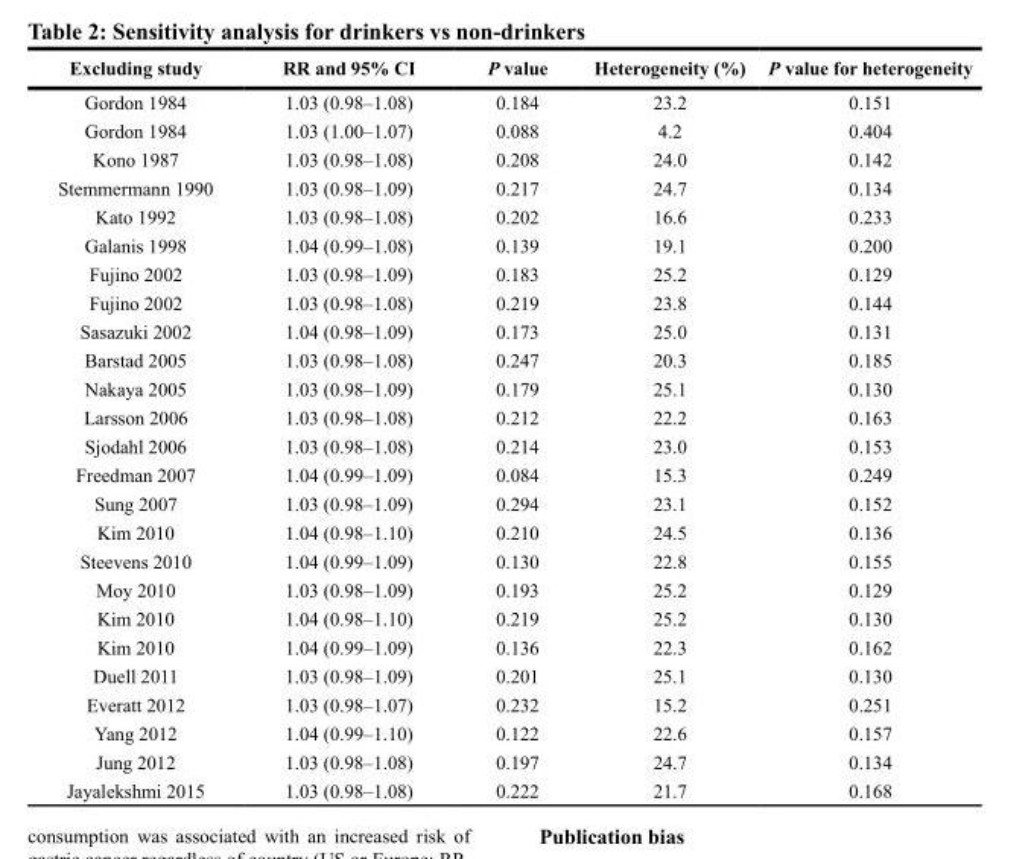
<table><thead><tr><td>Excluding study</td><td>RR and 95% CI</td><td>P value</td><td>Heterogeneity (%)</td><td>P value for heterogeneity</td></tr></thead><tbody><tr><td>Gordon 1984</td><td>1.03 (0.98–1.08)</td><td>0.184</td><td>23.2</td><td>0.151</td></tr><tr><td>Gordon 1984</td><td>1.03 (1.00–1.07)</td><td>0.088</td><td>4.2</td><td>0.404</td></tr><tr><td>Kono 1987</td><td>1.03 (0.98–1.08)</td><td>0.208</td><td>24.0</td><td>0.142</td></tr><tr><td>Stemmermann 1990</td><td>1.03 (0.98–1.09)</td><td>0.217</td><td>24.7</td><td>0.134</td></tr><tr><td>Kato 1992</td><td>1.03 (0.98–1.08)</td><td>0.202</td><td>16.6</td><td>0.233</td></tr><tr><td>Galanis 1998</td><td>1.04 (0.99–1.08)</td><td>0.139</td><td>19.1</td><td>0.200</td></tr><tr><td>Fujino 2002</td><td>1.03 (0.98–1.09)</td><td>0.183</td><td>25.2</td><td>0.129</td></tr><tr><td>Fujino 2002</td><td>1.03 (0.98–1.08)</td><td>0.219</td><td>23.8</td><td>0.144</td></tr><tr><td>Sasazuki 2002</td><td>1.04 (0.98–1.09)</td><td>0.173</td><td>25.0</td><td>0.131</td></tr><tr><td>Barstad 2005</td><td>1.03 (0.98–1.08)</td><td>0.247</td><td>20.3</td><td>0.185</td></tr><tr><td>Nakaya 2005</td><td>1.03 (0.98–1.09)</td><td>0.179</td><td>25.1</td><td>0.130</td></tr><tr><td>Larsson 2006</td><td>1.03 (0.98–1.08)</td><td>0.212</td><td>22.2</td><td>0.163</td></tr><tr><td>Sjodahl 2006</td><td>1.03 (0.98–1.08)</td><td>0.214</td><td>23.0</td><td>0.153</td></tr><tr><td>Freedman 2007</td><td>1.04 (0.99–1.09)</td><td>0.084</td><td>15.3</td><td>0.249</td></tr><tr><td>Sung 2007</td><td>1.03 (0.98–1.09)</td><td>0.294</td><td>23.1</td><td>0.152</td></tr><tr><td>Kim 2010</td><td>1.04 (0.98–1.10)</td><td>0.210</td><td>24.5</td><td>0.136</td></tr><tr><td>Steevens 2010</td><td>1.04 (0.99–1.09)</td><td>0.130</td><td>22.8</td><td>0.155</td></tr><tr><td>Moy 2010</td><td>1.03 (0.98–1.09)</td><td>0.193</td><td>25.2</td><td>0.129</td></tr><tr><td>Kim 2010</td><td>1.04 (0.98–1.10)</td><td>0.219</td><td>25.2</td><td>0.130</td></tr><tr><td>Kim 2010</td><td>1.04 (0.99–1.09)</td><td>0.136</td><td>22.3</td><td>0.162</td></tr><tr><td>Duell 2011</td><td>1.03 (0.98–1.09)</td><td>0.201</td><td>25.1</td><td>0.130</td></tr><tr><td>Everatt 2012</td><td>1.03 (0.98–1.07)</td><td>0.232</td><td>15.2</td><td>0.251</td></tr><tr><td>Yang 2012</td><td>1.04 (0.99–1.10)</td><td>0.122</td><td>22.6</td><td>0.157</td></tr><tr><td>Jung 2012</td><td>1.03 (0.98–1.08)</td><td>0.197</td><td>24.7</td><td>0.134</td></tr><tr><td>Jayalekshmi 2015</td><td>1.03 (0.98–1.08)</td><td>0.222</td><td>21.7</td><td>0.168</td></tr></tbody></table>